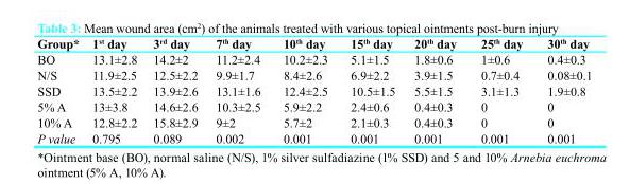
<table><thead><tr><td>Group*</td><td>1<sup>st</sup> day</td><td>3<sup>rd</sup> day</td><td>7<sup>th</sup> day</td><td>10<sup>th</sup> day</td><td>15<sup>th</sup> day</td><td>20<sup>th</sup> day</td><td>25<sup>th</sup> day</td><td>30<sup>th</sup> day</td></tr></thead><tbody><tr><td>BO</td><td>13.1±2.8</td><td>14.2±2</td><td>11.2±2.4</td><td>10.2±2.3</td><td>5.1±1.5</td><td>1.8±0.6</td><td>1±0.6</td><td>0.4±0.3</td></tr><tr><td>N/S</td><td>11.9±2.5</td><td>12.5±2.2</td><td>9.9±1.7</td><td>8.4±2.6</td><td>6.9±2.2</td><td>3.9±1.5</td><td>0.7±0.4</td><td>0.08±0.1</td></tr><tr><td>SSD</td><td>13.5±2.2</td><td>13.9±2.6</td><td>13.1±1.6</td><td>12.4±2.5</td><td>10.5±1.5</td><td>5.5±1.5</td><td>3.1±1.3</td><td>1.9±0.8</td></tr><tr><td>5% A</td><td>13±3.8</td><td>14.6±2.6</td><td>10.3±2.5</td><td>5.9±2.2</td><td>2.4±0.6</td><td>0.4±0.3</td><td>0</td><td>0</td></tr><tr><td>10% A</td><td>12.8±2.2</td><td>15.8±2.9</td><td>9±2</td><td>5.7±2</td><td>2.1±0.3</td><td>0.4±0.3</td><td>0</td><td>0</td></tr><tr><td>P value</td><td>0.795</td><td>0.089</td><td>0.002</td><td>0.001</td><td>0.001</td><td>0.001</td><td>0.001</td><td>0.001</td></tr></tbody></table>